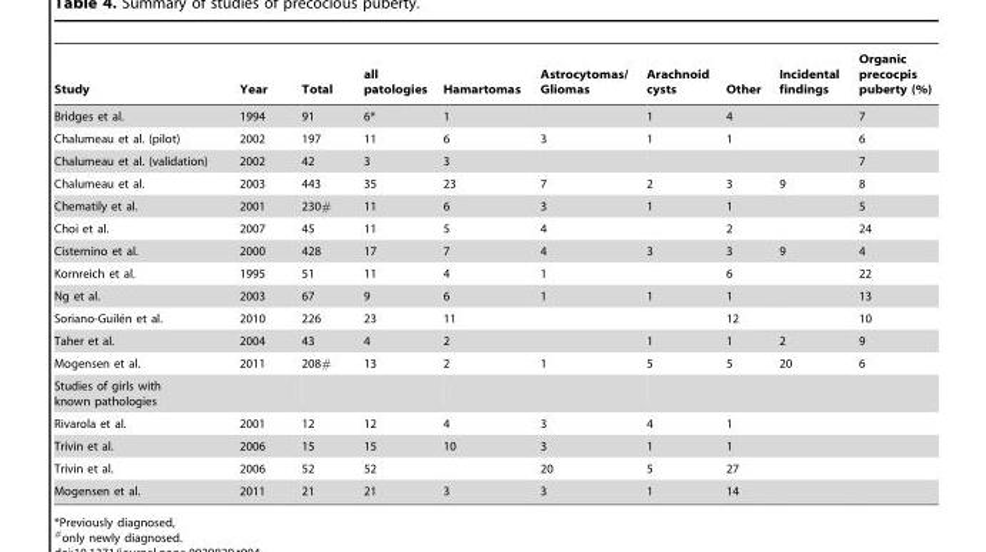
<table><thead><tr><td>Study</td><td>Year</td><td>Total</td><td>all patologies</td><td>Hamartomas</td><td>Astrocytomas/ Gliomas</td><td>Arachnoid cysts</td><td>Other</td><td>Incidental findings</td><td>Organic precocpis puberty (%)</td></tr></thead><tbody><tr><td>Bridges et al.</td><td>1994</td><td>91</td><td>6*</td><td>1</td><td></td><td>1</td><td>4</td><td></td><td>7</td></tr><tr><td>Chalumeau et al. (pilot)</td><td>2002</td><td>197</td><td>11</td><td>6</td><td>3</td><td>1</td><td>1</td><td></td><td>6</td></tr><tr><td>Chalumeau et al. (validation)</td><td>2002</td><td>42</td><td>3</td><td>3</td><td></td><td></td><td></td><td></td><td>7</td></tr><tr><td>Chalumeau et al.</td><td>2003</td><td>443</td><td>35</td><td>23</td><td>7</td><td>2</td><td>3</td><td>9</td><td>8</td></tr><tr><td>Chematily et al.</td><td>2001</td><td>230#</td><td>11</td><td>6</td><td>3</td><td>1</td><td>1</td><td></td><td>5</td></tr><tr><td>Choi et al.</td><td>2007</td><td>45</td><td>11</td><td>5</td><td>4</td><td></td><td>2</td><td></td><td>24</td></tr><tr><td>Cisternino et al.</td><td>2000</td><td>428</td><td>17</td><td>7</td><td>4</td><td>3</td><td>3</td><td>9</td><td>4</td></tr><tr><td>Kornreich et al.</td><td>1995</td><td>51</td><td>11</td><td>4</td><td>1</td><td></td><td>6</td><td></td><td>22</td></tr><tr><td>Ng et al.</td><td>2003</td><td>67</td><td>9</td><td>6</td><td>1</td><td>1</td><td>1</td><td></td><td>13</td></tr><tr><td>Soriano-Guile´n et al.</td><td>2010</td><td>226</td><td>23</td><td>11</td><td></td><td></td><td>12</td><td></td><td>10</td></tr><tr><td>Taher et al.</td><td>2004</td><td>43</td><td>4</td><td>2</td><td></td><td>1</td><td>1</td><td>2</td><td>9</td></tr><tr><td>Mogensen et al.</td><td>2011</td><td>208#</td><td>13</td><td>2</td><td>1</td><td>5</td><td>5</td><td>20</td><td>6</td></tr><tr><td colspan="10">Studies of girls with known pathologies</td></tr><tr><td>Rivarola et al.</td><td>2001</td><td>12</td><td>12</td><td>4</td><td>3</td><td>4</td><td>1</td><td></td><td></td></tr><tr><td>Trivin et al.</td><td>2006</td><td>15</td><td>15</td><td>10</td><td>3</td><td>1</td><td>1</td><td></td><td></td></tr><tr><td>Trivin et al.</td><td>2006</td><td>52</td><td>52</td><td></td><td>20</td><td>5</td><td>27</td><td></td><td></td></tr><tr><td>Mogensen et al.</td><td>2011</td><td>21</td><td>21</td><td>3</td><td>3</td><td>1</td><td>14</td><td></td><td></td></tr></tbody></table>